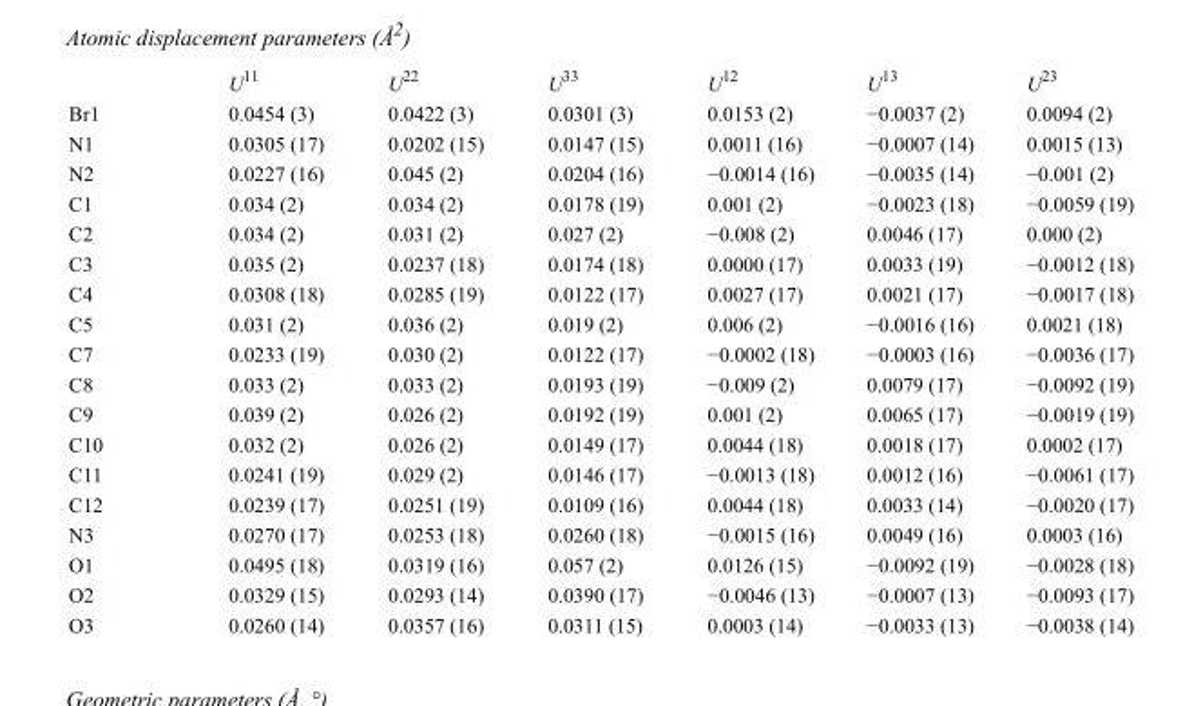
<table><thead><tr><td></td><td>U<sup>11</sup></td><td>U<sup>22</sup></td><td>U<sup>33</sup></td><td>U<sup>12</sup></td><td>U<sup>13</sup></td><td>U<sup>23</sup></td></tr></thead><tbody><tr><td>Br1</td><td>0.0454 (3)</td><td>0.0422 (3)</td><td>0.0301 (3)</td><td>0.0153 (2)</td><td>−0.0037 (2)</td><td>0.0094 (2)</td></tr><tr><td>N1</td><td>0.0305 (17)</td><td>0.0202 (15)</td><td>0.0147 (15)</td><td>0.0011 (16)</td><td>−0.0007 (14)</td><td>0.0015 (13)</td></tr><tr><td>N2</td><td>0.0227 (16)</td><td>0.045 (2)</td><td>0.0204 (16)</td><td>−0.0014 (16)</td><td>−0.0035 (14)</td><td>−0.001 (2)</td></tr><tr><td>C1</td><td>0.034 (2)</td><td>0.034 (2)</td><td>0.0178 (19)</td><td>0.001 (2)</td><td>−0.0023 (18)</td><td>−0.0059 (19)</td></tr><tr><td>C2</td><td>0.034 (2)</td><td>0.031 (2)</td><td>0.027 (2)</td><td>−0.008 (2)</td><td>0.0046 (17)</td><td>0.000 (2)</td></tr><tr><td>C3</td><td>0.035 (2)</td><td>0.0237 (18)</td><td>0.0174 (18)</td><td>0.0000 (17)</td><td>0.0033 (19)</td><td>−0.0012 (18)</td></tr><tr><td>C4</td><td>0.0308 (18)</td><td>0.0285 (19)</td><td>0.0122 (17)</td><td>0.0027 (17)</td><td>0.0021 (17)</td><td>−0.0017 (18)</td></tr><tr><td>C5</td><td>0.031 (2)</td><td>0.036 (2)</td><td>0.019 (2)</td><td>0.006 (2)</td><td>−0.0016 (16)</td><td>0.0021 (18)</td></tr><tr><td>C7</td><td>0.0233 (19)</td><td>0.030 (2)</td><td>0.0122 (17)</td><td>−0.0002 (18)</td><td>−0.0003 (16)</td><td>−0.0036 (17)</td></tr><tr><td>C8</td><td>0.033 (2)</td><td>0.033 (2)</td><td>0.0193 (19)</td><td>−0.009 (2)</td><td>0.0079 (17)</td><td>−0.0092 (19)</td></tr><tr><td>C9</td><td>0.039 (2)</td><td>0.026 (2)</td><td>0.0192 (19)</td><td>0.001 (2)</td><td>0.0065 (17)</td><td>−0.0019 (19)</td></tr><tr><td>C10</td><td>0.032 (2)</td><td>0.026 (2)</td><td>0.0149 (17)</td><td>0.0044 (18)</td><td>0.0018 (17)</td><td>0.0002 (17)</td></tr><tr><td>C11</td><td>0.0241 (19)</td><td>0.029 (2)</td><td>0.0146 (17)</td><td>−0.0013 (18)</td><td>0.0012 (16)</td><td>−0.0061 (17)</td></tr><tr><td>C12</td><td>0.0239 (17)</td><td>0.0251 (19)</td><td>0.0109 (16)</td><td>0.0044 (18)</td><td>0.0033 (14)</td><td>−0.0020 (17)</td></tr><tr><td>N3</td><td>0.0270 (17)</td><td>0.0253 (18)</td><td>0.0260 (18)</td><td>−0.0015 (16)</td><td>0.0049 (16)</td><td>0.0003 (16)</td></tr><tr><td>O1</td><td>0.0495 (18)</td><td>0.0319 (16)</td><td>0.057 (2)</td><td>0.0126 (15)</td><td>−0.0092 (19)</td><td>−0.0028 (18)</td></tr><tr><td>O2</td><td>0.0329 (15)</td><td>0.0293 (14)</td><td>0.0390 (17)</td><td>−0.0046 (13)</td><td>−0.0007 (13)</td><td>−0.0093 (17)</td></tr><tr><td>O3</td><td>0.0260 (14)</td><td>0.0357 (16)</td><td>0.0311 (15)</td><td>0.0003 (14)</td><td>−0.0033 (13)</td><td>−0.0038 (14)</td></tr></tbody></table>